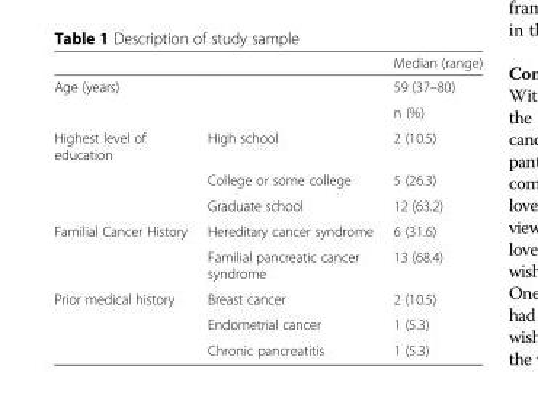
<table><thead><tr><td></td><td></td><td>Median (range)</td></tr></thead><tbody><tr><td rowspan="2">Age (years)</td><td></td><td>59 (37–80)</td></tr><tr><td></td><td>n (%)</td></tr><tr><td rowspan="3">Highest level of education</td><td>High school</td><td>2 (10.5)</td></tr><tr><td>College or some college</td><td>5 (26.3)</td></tr><tr><td>Graduate school</td><td>12 (63.2)</td></tr><tr><td rowspan="2">Familial Cancer History</td><td>Hereditary cancer syndrome</td><td>6 (31.6)</td></tr><tr><td>Familial pancreatic cancer syndrome</td><td>13 (68.4)</td></tr><tr><td rowspan="3">Prior medical history</td><td>Breast cancer</td><td>2 (10.5)</td></tr><tr><td>Endometrial cancer</td><td>1 (5.3)</td></tr><tr><td>Chronic pancreatitis</td><td>1 (5.3)</td></tr></tbody></table>